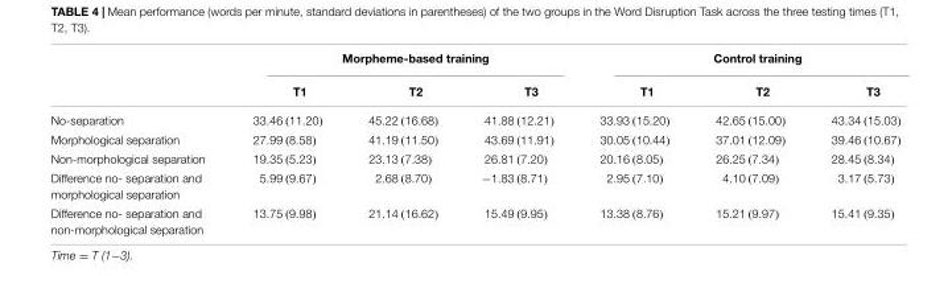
<table><thead><tr><td rowspan="2"></td><td colspan="3">Morpheme-based training</td><td colspan="3">Control training</td></tr><tr><td>T1</td><td>T2</td><td>T3</td><td>T1</td><td>T2</td><td>T3</td></tr></thead><tbody><tr><td>No-separation</td><td>33.46 (11.20)</td><td>45.22 (16.68)</td><td>41.88 (12.21)</td><td>33.93 (15.20)</td><td>42.65 (15.00)</td><td>43.34 (15.03)</td></tr><tr><td>Morphological separation</td><td>27.99 (8.58)</td><td>41.19 (11.50)</td><td>43.69 (11.91)</td><td>30.05 (10.44)</td><td>37.01 (12.09)</td><td>39.46 (10.67)</td></tr><tr><td>Non-morphological separation</td><td>19.35 (5.23)</td><td>23.13 (7.38)</td><td>26.81 (7.20)</td><td>20.16 (8.05)</td><td>26.25 (7.34)</td><td>28.45 (8.34)</td></tr><tr><td>Difference no- separation and morphological separation</td><td>5.99 (9.67)</td><td>2.68 (8.70)</td><td>−1.83 (8.71)</td><td>2.95 (7.10)</td><td>4.10 (7.09)</td><td>3.17 (5.73)</td></tr><tr><td>Difference no- separation and non-morphological separation</td><td>13.75 (9.98)</td><td>21.14 (16.62)</td><td>15.49 (9.95)</td><td>13.38 (8.76)</td><td>15.21 (9.97)</td><td>15.41 (9.35)</td></tr></tbody></table>